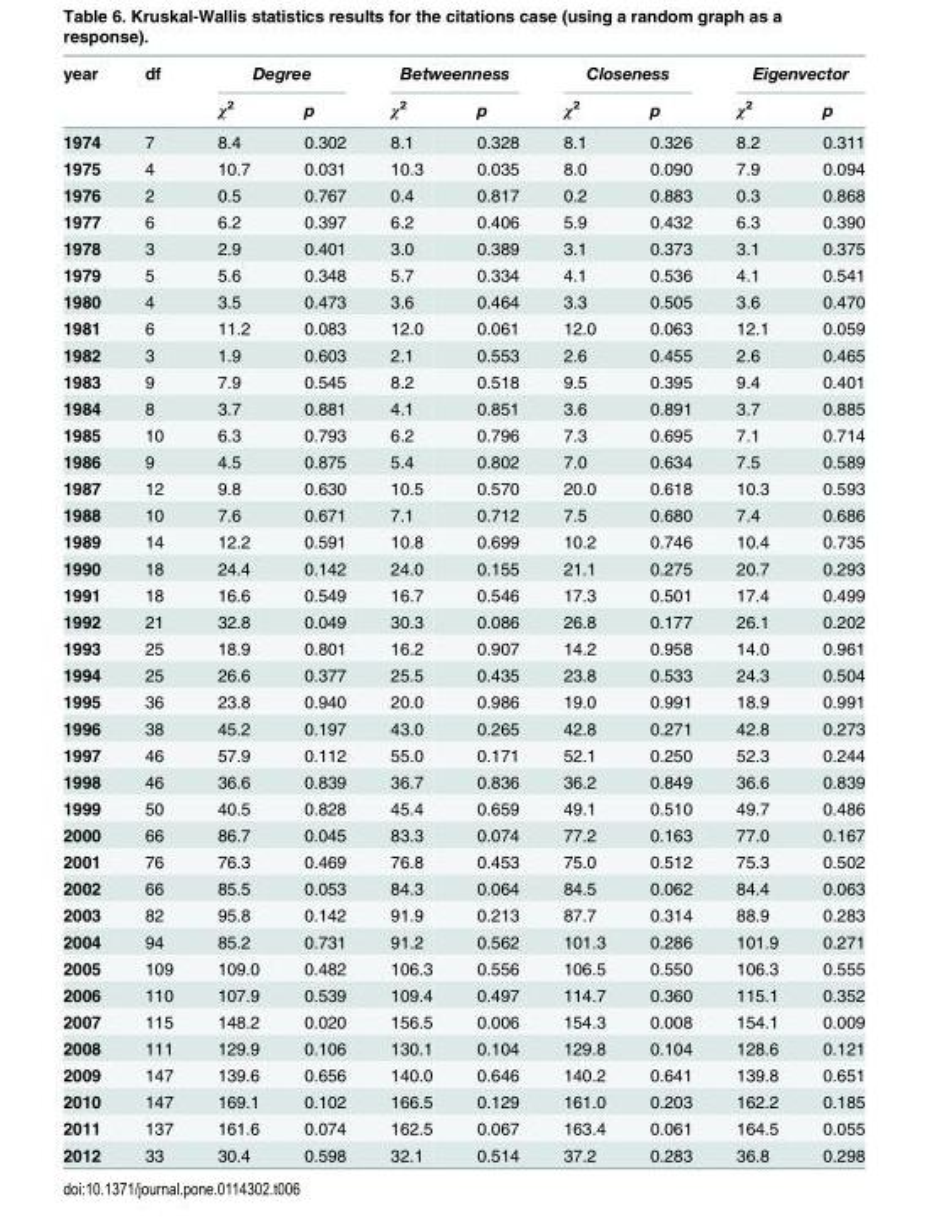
<table><thead><tr><td rowspan="2">year</td><td rowspan="2">df</td><td colspan="2">Degree</td><td colspan="2">Betweenness</td><td colspan="2">Closeness</td><td colspan="2">Eigenvector</td></tr><tr><td>χ<sup>2</sup></td><td>p</td><td>χ<sup>2</sup></td><td>p</td><td>χ<sup>2</sup></td><td>p</td><td>χ<sup>2</sup></td><td>p</td></tr></thead><tbody><tr><td>1974</td><td>7</td><td>8.4</td><td>0.302</td><td>8.1</td><td>0.328</td><td>8.1</td><td>0.326</td><td>8.2</td><td>0.311</td></tr><tr><td>1975</td><td>4</td><td>10.7</td><td>0.031</td><td>10.3</td><td>0.035</td><td>8.0</td><td>0.090</td><td>7.9</td><td>0.094</td></tr><tr><td>1976</td><td>2</td><td>0.5</td><td>0.767</td><td>0.4</td><td>0.817</td><td>0.2</td><td>0.883</td><td>0.3</td><td>0.868</td></tr><tr><td>1977</td><td>6</td><td>6.2</td><td>0.397</td><td>6.2</td><td>0.406</td><td>5.9</td><td>0.432</td><td>6.3</td><td>0.390</td></tr><tr><td>1978</td><td>3</td><td>2.9</td><td>0.401</td><td>3.0</td><td>0.389</td><td>3.1</td><td>0.373</td><td>3.1</td><td>0.375</td></tr><tr><td>1979</td><td>5</td><td>5.6</td><td>0.348</td><td>5.7</td><td>0.334</td><td>4.1</td><td>0.536</td><td>4.1</td><td>0.541</td></tr><tr><td>1980</td><td>4</td><td>3.5</td><td>0.473</td><td>3.6</td><td>0.464</td><td>3.3</td><td>0.505</td><td>3.6</td><td>0.470</td></tr><tr><td>1981</td><td>6</td><td>11.2</td><td>0.083</td><td>12.0</td><td>0.061</td><td>12.0</td><td>0.063</td><td>12.1</td><td>0.059</td></tr><tr><td>1982</td><td>3</td><td>1.9</td><td>0.603</td><td>2.1</td><td>0.553</td><td>2.6</td><td>0.455</td><td>2.6</td><td>0.465</td></tr><tr><td>1983</td><td>9</td><td>7.9</td><td>0.545</td><td>8.2</td><td>0.518</td><td>9.5</td><td>0.395</td><td>9.4</td><td>0.401</td></tr><tr><td>1984</td><td>8</td><td>3.7</td><td>0.881</td><td>4.1</td><td>0.851</td><td>3.6</td><td>0.891</td><td>3.7</td><td>0.885</td></tr><tr><td>1985</td><td>10</td><td>6.3</td><td>0.793</td><td>6.2</td><td>0.796</td><td>7.3</td><td>0.695</td><td>7.1</td><td>0.714</td></tr><tr><td>1986</td><td>9</td><td>4.5</td><td>0.875</td><td>5.4</td><td>0.802</td><td>7.0</td><td>0.634</td><td>7.5</td><td>0.589</td></tr><tr><td>1987</td><td>12</td><td>9.8</td><td>0.630</td><td>10.5</td><td>0.570</td><td>20.0</td><td>0.618</td><td>10.3</td><td>0.593</td></tr><tr><td>1988</td><td>10</td><td>7.6</td><td>0.671</td><td>7.1</td><td>0.712</td><td>7.5</td><td>0.680</td><td>7.4</td><td>0.686</td></tr><tr><td>1989</td><td>14</td><td>12.2</td><td>0.591</td><td>10.8</td><td>0.699</td><td>10.2</td><td>0.746</td><td>10.4</td><td>0.735</td></tr><tr><td>1990</td><td>18</td><td>24.4</td><td>0.142</td><td>24.0</td><td>0.155</td><td>21.1</td><td>0.275</td><td>20.7</td><td>0.293</td></tr><tr><td>1991</td><td>18</td><td>16.6</td><td>0.549</td><td>16.7</td><td>0.546</td><td>17.3</td><td>0.501</td><td>17.4</td><td>0.499</td></tr><tr><td>1992</td><td>21</td><td>32.8</td><td>0.049</td><td>30.3</td><td>0.086</td><td>26.8</td><td>0.177</td><td>26.1</td><td>0.202</td></tr><tr><td>1993</td><td>25</td><td>18.9</td><td>0.801</td><td>16.2</td><td>0.907</td><td>14.2</td><td>0.958</td><td>14.0</td><td>0.961</td></tr><tr><td>1994</td><td>25</td><td>26.6</td><td>0.377</td><td>25.5</td><td>0.435</td><td>23.8</td><td>0.533</td><td>24.3</td><td>0.504</td></tr><tr><td>1995</td><td>36</td><td>23.8</td><td>0.940</td><td>20.0</td><td>0.986</td><td>19.0</td><td>0.991</td><td>18.9</td><td>0.991</td></tr><tr><td>1996</td><td>38</td><td>45.2</td><td>0.197</td><td>43.0</td><td>0.265</td><td>42.8</td><td>0.271</td><td>42.8</td><td>0.273</td></tr><tr><td>1997</td><td>46</td><td>57.9</td><td>0.112</td><td>55.0</td><td>0.171</td><td>52.1</td><td>0.250</td><td>52.3</td><td>0.244</td></tr><tr><td>1998</td><td>46</td><td>36.6</td><td>0.839</td><td>36.7</td><td>0.836</td><td>36.2</td><td>0.849</td><td>36.6</td><td>0.839</td></tr><tr><td>1999</td><td>50</td><td>40.5</td><td>0.828</td><td>45.4</td><td>0.659</td><td>49.1</td><td>0.510</td><td>49.7</td><td>0.486</td></tr><tr><td>2000</td><td>66</td><td>86.7</td><td>0.045</td><td>83.3</td><td>0.074</td><td>77.2</td><td>0.163</td><td>77.0</td><td>0.167</td></tr><tr><td>2001</td><td>76</td><td>76.3</td><td>0.469</td><td>76.8</td><td>0.453</td><td>75.0</td><td>0.512</td><td>75.3</td><td>0.502</td></tr><tr><td>2002</td><td>66</td><td>85.5</td><td>0.053</td><td>84.3</td><td>0.064</td><td>84.5</td><td>0.062</td><td>84.4</td><td>0.063</td></tr><tr><td>2003</td><td>82</td><td>95.8</td><td>0.142</td><td>91.9</td><td>0.213</td><td>87.7</td><td>0.314</td><td>88.9</td><td>0.283</td></tr><tr><td>2004</td><td>94</td><td>85.2</td><td>0.731</td><td>91.2</td><td>0.562</td><td>101.3</td><td>0.286</td><td>101.9</td><td>0.271</td></tr><tr><td>2005</td><td>109</td><td>109.0</td><td>0.482</td><td>106.3</td><td>0.556</td><td>106.5</td><td>0.550</td><td>106.3</td><td>0.555</td></tr><tr><td>2006</td><td>110</td><td>107.9</td><td>0.539</td><td>109.4</td><td>0.497</td><td>114.7</td><td>0.360</td><td>115.1</td><td>0.352</td></tr><tr><td>2007</td><td>115</td><td>148.2</td><td>0.020</td><td>156.5</td><td>0.006</td><td>154.3</td><td>0.008</td><td>154.1</td><td>0.009</td></tr><tr><td>2008</td><td>111</td><td>129.9</td><td>0.106</td><td>130.1</td><td>0.104</td><td>129.8</td><td>0.104</td><td>128.6</td><td>0.121</td></tr><tr><td>2009</td><td>147</td><td>139.6</td><td>0.656</td><td>140.0</td><td>0.646</td><td>140.2</td><td>0.641</td><td>139.8</td><td>0.651</td></tr><tr><td>2010</td><td>147</td><td>169.1</td><td>0.102</td><td>166.5</td><td>0.129</td><td>161.0</td><td>0.203</td><td>162.2</td><td>0.185</td></tr><tr><td>2011</td><td>137</td><td>161.6</td><td>0.074</td><td>162.5</td><td>0.067</td><td>163.4</td><td>0.061</td><td>164.5</td><td>0.055</td></tr><tr><td>2012</td><td>33</td><td>30.4</td><td>0.598</td><td>32.1</td><td>0.514</td><td>37.2</td><td>0.283</td><td>36.8</td><td>0.298</td></tr></tbody></table>